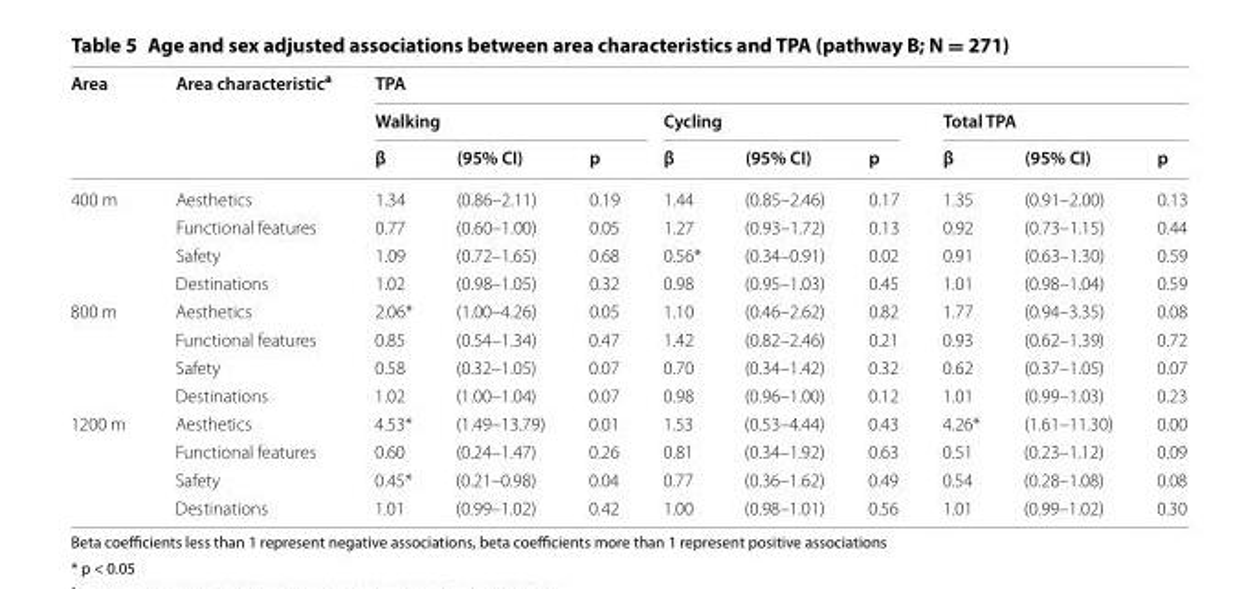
<table><thead><tr><td rowspan="3">Area</td><td rowspan="3">Area characteristic<sup>a</sup></td><td colspan="9">TPA</td></tr><tr><td colspan="3">Walking</td><td colspan="3">Cycling</td><td colspan="3">Total TPA</td></tr><tr><td>β</td><td>(95% CI)</td><td>p</td><td>β</td><td>(95% CI)</td><td>p</td><td>β</td><td>(95% CI)</td><td>p</td></tr></thead><tbody><tr><td rowspan="4">400 m</td><td>Aesthetics</td><td>1.34</td><td>(0.86–2.11)</td><td>0.19</td><td>1.44</td><td>(0.85–2.46)</td><td>0.17</td><td>1.35</td><td>(0.91–2.00)</td><td>0.13</td></tr><tr><td>Functional features</td><td>0.77</td><td>(0.60–1.00)</td><td>0.05</td><td>1.27</td><td>(0.93–1.72)</td><td>0.13</td><td>0.92</td><td>(0.73–1.15)</td><td>0.44</td></tr><tr><td>Safety</td><td>1.09</td><td>(0.72–1.65)</td><td>0.68</td><td>0.56*</td><td>(0.34–0.91)</td><td>0.02</td><td>0.91</td><td>(0.63–1.30)</td><td>0.59</td></tr><tr><td>Destinations</td><td>1.02</td><td>(0.98–1.05)</td><td>0.32</td><td>0.98</td><td>(0.95–1.03)</td><td>0.45</td><td>1.01</td><td>(0.98–1.04)</td><td>0.59</td></tr><tr><td rowspan="4">800 m</td><td>Aesthetics</td><td>2.06*</td><td>(1.00–4.26)</td><td>0.05</td><td>1.10</td><td>(0.46–2.62)</td><td>0.82</td><td>1.77</td><td>(0.94–3.35)</td><td>0.08</td></tr><tr><td>Functional features</td><td>0.85</td><td>(0.54–1.34)</td><td>0.47</td><td>1.42</td><td>(0.82–2.46)</td><td>0.21</td><td>0.93</td><td>(0.62–1.39)</td><td>0.72</td></tr><tr><td>Safety</td><td>0.58</td><td>(0.32–1.05)</td><td>0.07</td><td>0.70</td><td>(0.34–1.42)</td><td>0.32</td><td>0.62</td><td>(0.37–1.05)</td><td>0.07</td></tr><tr><td>Destinations</td><td>1.02</td><td>(1.00–1.04)</td><td>0.07</td><td>0.98</td><td>(0.96–1.00)</td><td>0.12</td><td>1.01</td><td>(0.99–1.03)</td><td>0.23</td></tr><tr><td rowspan="4">1200 m</td><td>Aesthetics</td><td>4.53*</td><td>(1.49–13.79)</td><td>0.01</td><td>1.53</td><td>(0.53–4.44)</td><td>0.43</td><td>4.26*</td><td>(1.61–11.30)</td><td>0.00</td></tr><tr><td>Functional features</td><td>0.60</td><td>(0.24–1.47)</td><td>0.26</td><td>0.81</td><td>(0.34–1.92)</td><td>0.63</td><td>0.51</td><td>(0.23–1.12)</td><td>0.09</td></tr><tr><td>Safety</td><td>0.45*</td><td>(0.21–0.98)</td><td>0.04</td><td>0.77</td><td>(0.36–1.62)</td><td>0.49</td><td>0.54</td><td>(0.28–1.08)</td><td>0.08</td></tr><tr><td>Destinations</td><td>1.01</td><td>(0.99–1.02)</td><td>0.42</td><td>1.00</td><td>(0.98–1.01)</td><td>0.56</td><td>1.01</td><td>(0.99–1.02)</td><td>0.30</td></tr></tbody></table>